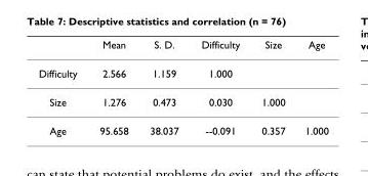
<table><thead><tr><td></td><td>Mean</td><td>S. D.</td><td>Difficulty</td><td>Size</td><td>Age</td></tr></thead><tbody><tr><td>Difficulty</td><td>2.566</td><td>1.159</td><td>1.000</td><td></td><td></td></tr><tr><td>Size</td><td>1.276</td><td>0.473</td><td>0.030</td><td>1.000</td><td></td></tr><tr><td>Age</td><td>95.658</td><td>38.037</td><td>--0.091</td><td>0.357</td><td>1.000</td></tr></tbody></table>